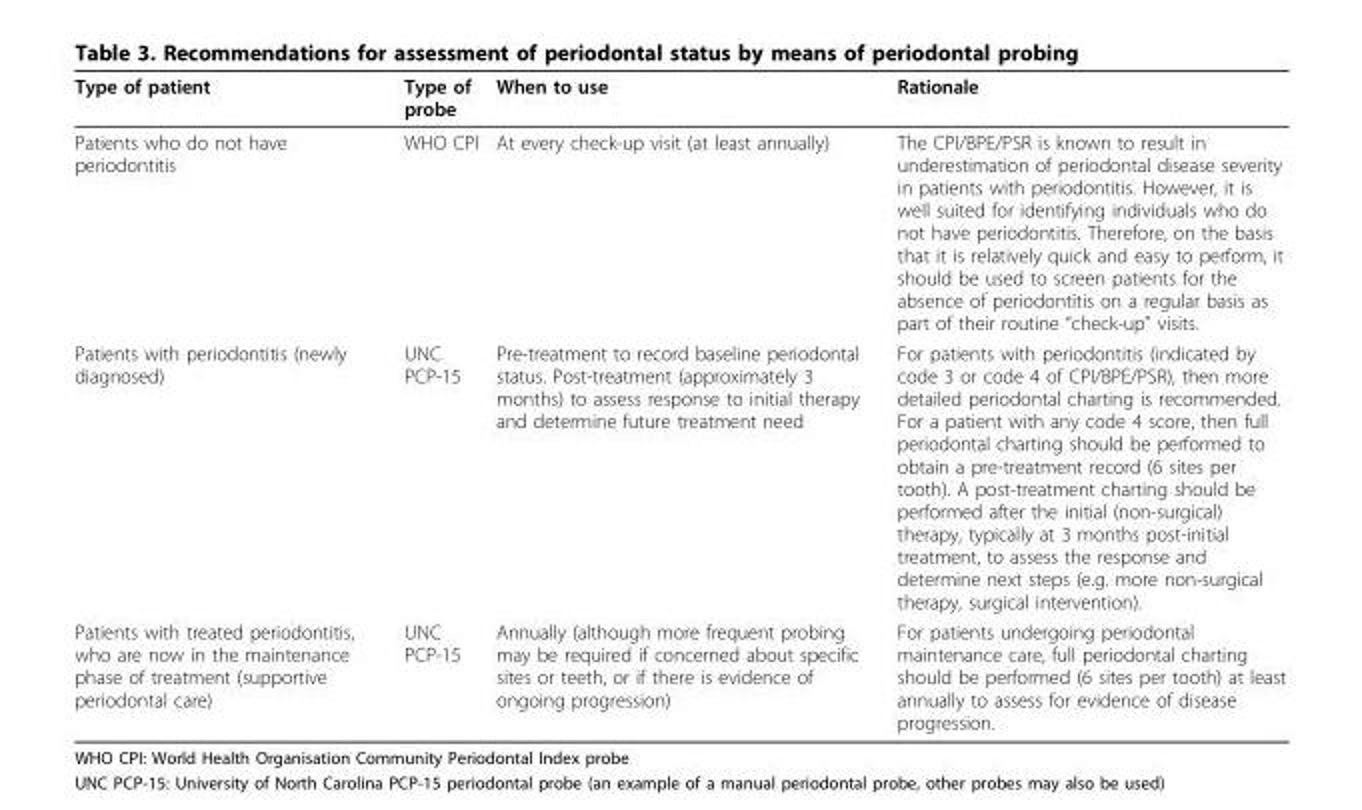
<table><thead><tr><td>Type of patient</td><td>Type of probe</td><td>When to use</td><td>Rationale</td></tr></thead><tbody><tr><td>Patients who do not have periodontitis</td><td>WHO CPI</td><td>At every check-up visit (at least annually)</td><td>The CPI/BPE/PSR is known to result in underestimation of periodontal disease severity in patients with periodontitis. However, it is well suited for identifying individuals who do not have periodontitis. Therefore, on the basis that it is relatively quick and easy to perform, it should be used to screen patients for the absence of periodontitis on a regular basis as part of their routine “check-up” visits.</td></tr><tr><td>Patients with periodontitis (newly diagnosed)</td><td>UNC PCP-15</td><td>Pre-treatment to record baseline periodontal status. Post-treatment (approximately 3 months) to assess response to initial therapy and determine future treatment need</td><td>For patients with periodontitis (indicated by code 3 or code 4 of CPI/BPE/PSR), then more detailed periodontal charting is recommended. For a patient with any code 4 score, then full periodontal charting should be performed to obtain a pre-treatment record (6 sites per tooth). A post-treatment charting should be performed after the initial (non-surgical) therapy, typically at 3 months post-initial treatment, to assess the response and determine next steps (e.g. more non-surgical therapy, surgical intervention).</td></tr><tr><td>Patients with treated periodontitis, who are now in the maintenance phase of treatment (supportive periodontal care)</td><td>UNC PCP-15</td><td>Annually (although more frequent probing may be required if concerned about specific sites or teeth, or if there is evidence of ongoing progression)</td><td>For patients undergoing periodontal maintenance care, full periodontal charting should be performed (6 sites per tooth) at least annually to assess for evidence of disease progression.</td></tr></tbody></table>